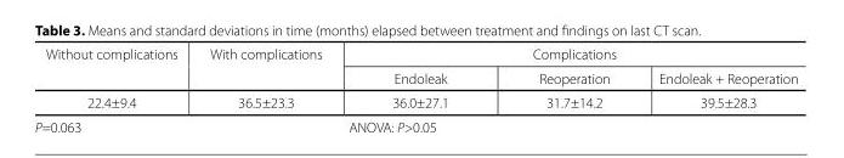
<table><thead><tr><td rowspan="2">Without complications</td><td rowspan="2">With complications</td><td colspan="3">Complications</td></tr><tr><td>Endoleak</td><td>Reoperation</td><td>Endoleak + Reoperation</td></tr></thead><tbody><tr><td>22.4±9.4</td><td>36.5±23.3</td><td>36.0±27.1</td><td>31.7±14.2</td><td>39.5±28.3</td></tr></tbody></table>